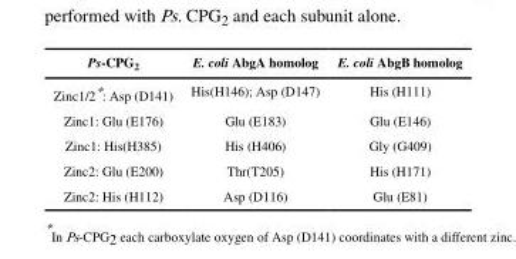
<table><thead><tr><td>Ps-CPG<sub>2</sub></td><td>E. coli AbgA homolog</td><td>E. coli AbgB homolog</td></tr></thead><tbody><tr><td>Zinc1/2*: Asp (D141)</td><td>His(H146); Asp (D147)</td><td>His (H111)</td></tr><tr><td>Zinc1: Glu (E176)</td><td>Glu (E183)</td><td>Glu (E146)</td></tr><tr><td>Zinc1: His(H385)</td><td>His (H406)</td><td>Gly (G409)</td></tr><tr><td>Zinc2: Glu (E200)</td><td>Thr(T205)</td><td>His (H171)</td></tr><tr><td>Zinc2: His (H112)</td><td>Asp (D116)</td><td>Glu (E81)</td></tr></tbody></table>